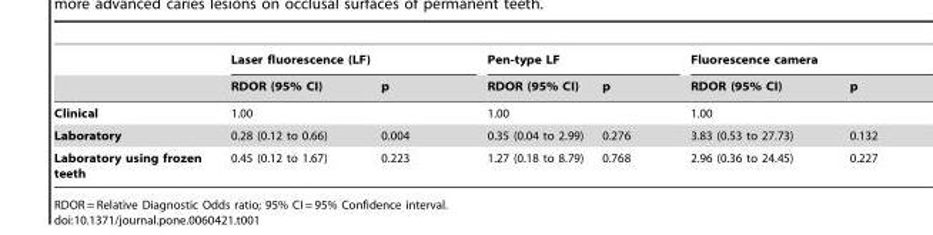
<table><thead><tr><td rowspan="2"></td><td colspan="2">Laser fluorescence (LF)</td><td colspan="2">Pen-type LF</td><td colspan="2">Fluorescence camera</td></tr><tr><td>RDOR (95% CI)</td><td>p</td><td>RDOR (95% CI)</td><td>p</td><td>RDOR (95% CI)</td><td>p</td></tr></thead><tbody><tr><td>Clinical</td><td>1.00</td><td></td><td>1.00</td><td></td><td>1.00</td><td></td></tr><tr><td>Laboratory</td><td>0.28 (0.12 to 0.66)</td><td>0.004</td><td>0.35 (0.04 to 2.99)</td><td>0.276</td><td>3.83 (0.53 to 27.73)</td><td>0.132</td></tr><tr><td>Laboratory using frozen teeth</td><td>0.45 (0.12 to 1.67)</td><td>0.223</td><td>1.27 (0.18 to 8.79)</td><td>0.768</td><td>2.96 (0.36 to 24.45)</td><td>0.227</td></tr></tbody></table>